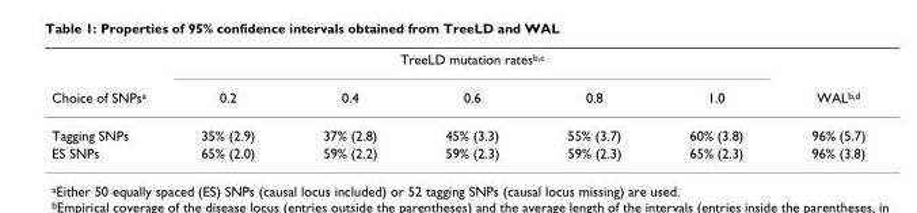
<table><thead><tr><td rowspan="2">Choice of SNPs<sup>a</sup></td><td colspan="5">TreeLD mutation rates<sup>b,c</sup></td><td rowspan="2">WAL<sup>b,d</sup></td></tr><tr><td>0.2</td><td>0.4</td><td>0.6</td><td>0.8</td><td>1.0</td></tr></thead><tbody><tr><td>Tagging SNPs</td><td>35% (2.9)</td><td>37% (2.8)</td><td>45% (3.3)</td><td>55% (3.7)</td><td>60% (3.8)</td><td>96% (5.7)</td></tr><tr><td>ES SNPs</td><td>65% (2.0)</td><td>59% (2.2)</td><td>59% (2.3)</td><td>59% (2.3)</td><td>65% (2.3)</td><td>96% (3.8)</td></tr></tbody></table>